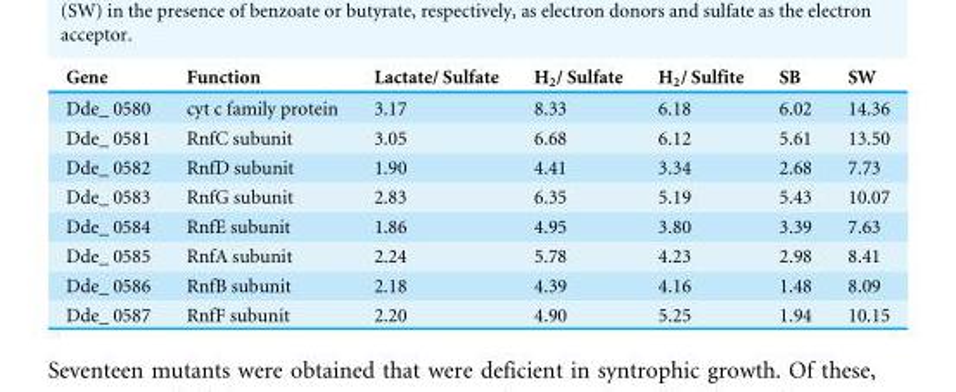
<table><thead><tr><td>Gene</td><td>Function</td><td>Lactate/ Sulfate</td><td>H<sub>2</sub>/ Sulfate</td><td>H<sub>2</sub>/ Sulfite</td><td>SB</td><td>SW</td></tr></thead><tbody><tr><td>Dde_ 0580</td><td>cyt c family protein</td><td>3.17</td><td>8.33</td><td>6.18</td><td>6.02</td><td>14.36</td></tr><tr><td>Dde_ 0581</td><td>RnfC subunit</td><td>3.05</td><td>6.68</td><td>6.12</td><td>5.61</td><td>13.50</td></tr><tr><td>Dde_ 0582</td><td>RnfD subunit</td><td>1.90</td><td>4.41</td><td>3.34</td><td>2.68</td><td>7.73</td></tr><tr><td>Dde_ 0583</td><td>RnfG subunit</td><td>2.83</td><td>6.35</td><td>5.19</td><td>5.43</td><td>10.07</td></tr><tr><td>Dde_ 0584</td><td>RnfE subunit</td><td>1.86</td><td>4.95</td><td>3.80</td><td>3.39</td><td>7.63</td></tr><tr><td>Dde_ 0585</td><td>RnfA subunit</td><td>2.24</td><td>5.78</td><td>4.23</td><td>2.98</td><td>8.41</td></tr><tr><td>Dde_ 0586</td><td>RnfB subunit</td><td>2.18</td><td>4.39</td><td>4.16</td><td>1.48</td><td>8.09</td></tr><tr><td>Dde_ 0587</td><td>RnfF subunit</td><td>2.20</td><td>4.90</td><td>5.25</td><td>1.94</td><td>10.15</td></tr></tbody></table>